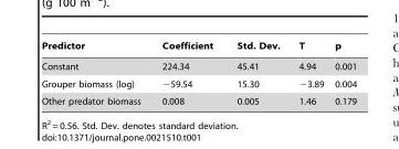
<table><thead><tr><td>Predictor</td><td>Coefficient</td><td>Std. Dev.</td><td>T</td><td>p</td></tr></thead><tbody><tr><td>Constant</td><td>224.34</td><td>45.41</td><td>4.94</td><td>0.001</td></tr><tr><td>Grouper biomass (log)</td><td>−59.54</td><td>15.30</td><td>−3.89</td><td>0.004</td></tr><tr><td>Other predator biomass</td><td>0.008</td><td>0.005</td><td>1.46</td><td>0.179</td></tr></tbody></table>